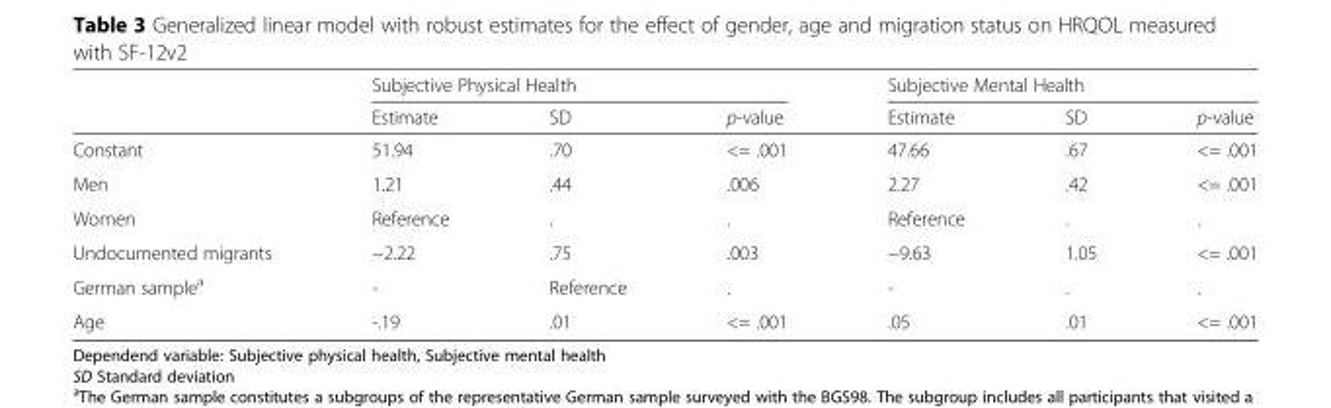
<table><thead><tr><td rowspan="2"></td><td colspan="3">Subjective Physical Health</td><td colspan="3">Subjective Mental Health</td></tr><tr><td>Estimate</td><td>SD</td><td>p-value</td><td>Estimate</td><td>SD</td><td>p-value</td></tr></thead><tbody><tr><td>Constant</td><td>51.94</td><td>.70</td><td>&lt;= .001</td><td>47.66</td><td>.67</td><td>&lt;= .001</td></tr><tr><td>Men</td><td>1.21</td><td>.44</td><td>.006</td><td>2.27</td><td>.42</td><td>&lt;= .001</td></tr><tr><td>Women</td><td>Reference</td><td>.</td><td>.</td><td>Reference</td><td>.</td><td>.</td></tr><tr><td>Undocumented migrants</td><td>−2.22</td><td>.75</td><td>.003</td><td>−9.63</td><td>1.05</td><td>&lt;= .001</td></tr><tr><td>German sample<sup>a</sup></td><td>-</td><td>Reference</td><td>.</td><td>-</td><td>.</td><td>.</td></tr><tr><td>Age</td><td>-.19</td><td>.01</td><td>&lt;= .001</td><td>.05</td><td>.01</td><td>&lt;= .001</td></tr></tbody></table>